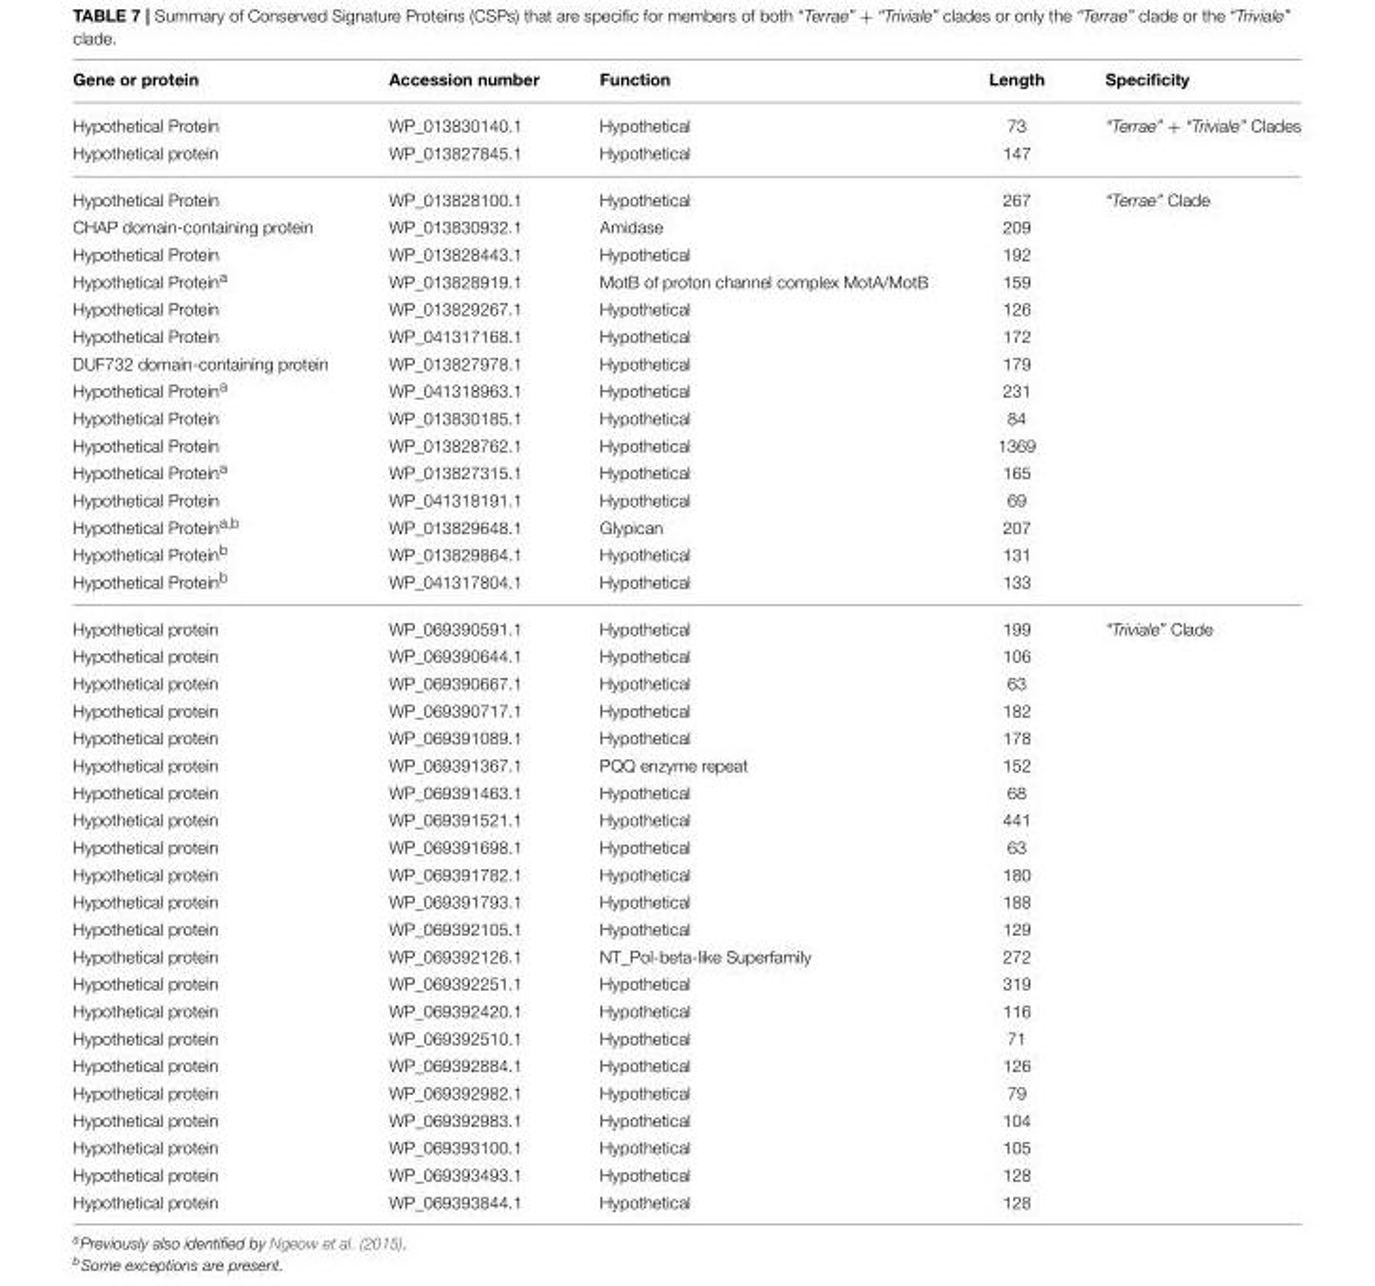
<table><thead><tr><td>Gene or protein</td><td>Accession number</td><td>Function</td><td>Length</td><td>Specificity</td></tr></thead><tbody><tr><td>Hypothetical Protein</td><td>WP_013830140.1</td><td>Hypothetical</td><td>73</td><td>“Terrae” + “Triviale” Clades</td></tr><tr><td>Hypothetical protein</td><td>WP_013827845.1</td><td>Hypothetical</td><td>147</td><td></td></tr><tr><td>Hypothetical Protein</td><td>WP_013828100.1</td><td>Hypothetical</td><td>267</td><td>“Terrae” Clade</td></tr><tr><td>CHAP domain-containing protein</td><td>WP_013830932.1</td><td>Amidase</td><td>209</td><td></td></tr><tr><td>Hypothetical Protein</td><td>WP_013828443.1</td><td>Hypothetical</td><td>192</td><td></td></tr><tr><td>Hypothetical Protein<sup>a</sup></td><td>WP_013828919.1</td><td>MotB of proton channel complex MotA/MotB</td><td>159</td><td></td></tr><tr><td>Hypothetical Protein</td><td>WP_013829267.1</td><td>Hypothetical</td><td>126</td><td></td></tr><tr><td>Hypothetical Protein</td><td>WP_041317168.1</td><td>Hypothetical</td><td>172</td><td></td></tr><tr><td>DUF732 domain-containing protein</td><td>WP_013827978.1</td><td>Hypothetical</td><td>179</td><td></td></tr><tr><td>Hypothetical Protein<sup>a</sup></td><td>WP_041318963.1</td><td>Hypothetical</td><td>231</td><td></td></tr><tr><td>Hypothetical Protein</td><td>WP_013830185.1</td><td>Hypothetical</td><td>84</td><td></td></tr><tr><td>Hypothetical Protein</td><td>WP_013828762.1</td><td>Hypothetical</td><td>1369</td><td></td></tr><tr><td>Hypothetical Protein<sup>a</sup></td><td>WP_013827315.1</td><td>Hypothetical</td><td>165</td><td></td></tr><tr><td>Hypothetical Protein</td><td>WP_041318191.1</td><td>Hypothetical</td><td>69</td><td></td></tr><tr><td>Hypothetical Protein<sup>a,b</sup></td><td>WP_013829648.1</td><td>Glypican</td><td>207</td><td></td></tr><tr><td>Hypothetical Protein<sup>b</sup></td><td>WP_013829864.1</td><td>Hypothetical</td><td>131</td><td></td></tr><tr><td>Hypothetical Protein<sup>b</sup></td><td>WP_041317804.1</td><td>Hypothetical</td><td>133</td><td></td></tr><tr><td>Hypothetical protein</td><td>WP_069390591.1</td><td>Hypothetical</td><td>199</td><td>“Triviale” Clade</td></tr><tr><td>Hypothetical protein</td><td>WP_069390644.1</td><td>Hypothetical</td><td>106</td><td></td></tr><tr><td>Hypothetical protein</td><td>WP_069390667.1</td><td>Hypothetical</td><td>63</td><td></td></tr><tr><td>Hypothetical protein</td><td>WP_069390717.1</td><td>Hypothetical</td><td>182</td><td></td></tr><tr><td>Hypothetical protein</td><td>WP_069391089.1</td><td>Hypothetical</td><td>178</td><td></td></tr><tr><td>Hypothetical protein</td><td>WP_069391367.1</td><td>PQQ enzyme repeat</td><td>152</td><td></td></tr><tr><td>Hypothetical protein</td><td>WP_069391463.1</td><td>Hypothetical</td><td>68</td><td></td></tr><tr><td>Hypothetical protein</td><td>WP_069391521.1</td><td>Hypothetical</td><td>441</td><td></td></tr><tr><td>Hypothetical protein</td><td>WP_069391698.1</td><td>Hypothetical</td><td>63</td><td></td></tr><tr><td>Hypothetical protein</td><td>WP_069391782.1</td><td>Hypothetical</td><td>180</td><td></td></tr><tr><td>Hypothetical protein</td><td>WP_069391793.1</td><td>Hypothetical</td><td>188</td><td></td></tr><tr><td>Hypothetical protein</td><td>WP_069392105.1</td><td>Hypothetical</td><td>129</td><td></td></tr><tr><td>Hypothetical protein</td><td>WP_069392126.1</td><td>NT_Pol-beta-like Superfamily</td><td>272</td><td></td></tr><tr><td>Hypothetical protein</td><td>WP_069392251.1</td><td>Hypothetical</td><td>319</td><td></td></tr><tr><td>Hypothetical protein</td><td>WP_069392420.1</td><td>Hypothetical</td><td>116</td><td></td></tr><tr><td>Hypothetical protein</td><td>WP_069392510.1</td><td>Hypothetical</td><td>71</td><td></td></tr><tr><td>Hypothetical protein</td><td>WP_069392884.1</td><td>Hypothetical</td><td>126</td><td></td></tr><tr><td>Hypothetical protein</td><td>WP_069392982.1</td><td>Hypothetical</td><td>79</td><td></td></tr><tr><td>Hypothetical protein</td><td>WP_069392983.1</td><td>Hypothetical</td><td>104</td><td></td></tr><tr><td>Hypothetical protein</td><td>WP_069393100.1</td><td>Hypothetical</td><td>105</td><td></td></tr><tr><td>Hypothetical protein</td><td>WP_069393493.1</td><td>Hypothetical</td><td>128</td><td></td></tr><tr><td>Hypothetical protein</td><td>WP_069393844.1</td><td>Hypothetical</td><td>128</td><td></td></tr></tbody></table>